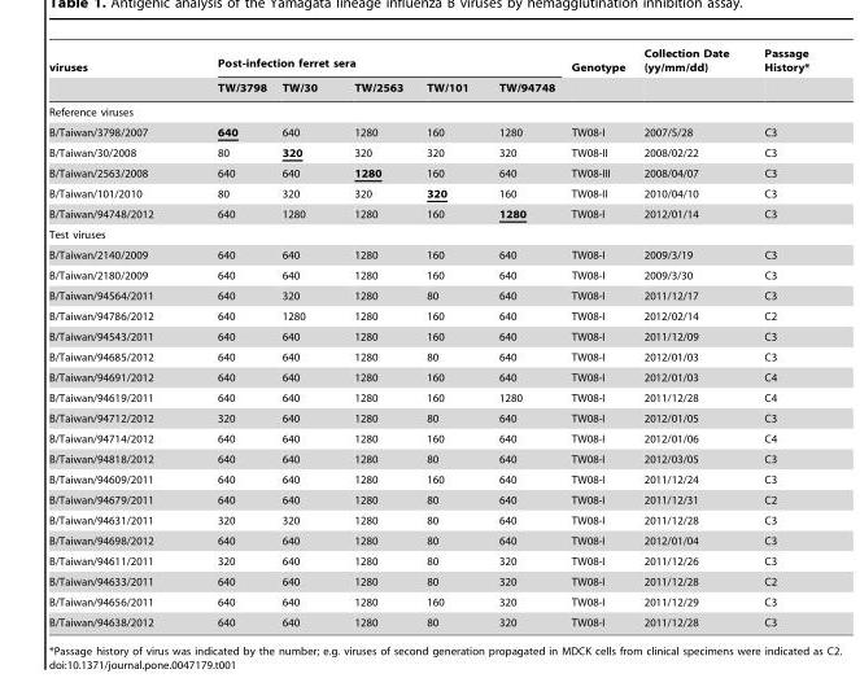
<table><thead><tr><td rowspan="2">viruses</td><td colspan="5">Post-infection ferret sera</td><td rowspan="2">Genotype</td><td rowspan="2">Collection Date (yy/mm/dd)</td><td rowspan="2">Passage History*</td></tr><tr><td>TW/3798</td><td>TW/30</td><td>TW/2563</td><td>TW/101</td><td>TW/94748</td></tr></thead><tbody><tr><td colspan="9">Reference viruses</td></tr><tr><td>B/Taiwan/3798/2007</td><td>640</td><td>640</td><td>1280</td><td>160</td><td>1280</td><td>TW08-I</td><td>2007/5/28</td><td>C3</td></tr><tr><td>B/Taiwan/30/2008</td><td>80</td><td>320</td><td>320</td><td>320</td><td>320</td><td>TW08-II</td><td>2008/02/22</td><td>C3</td></tr><tr><td>B/Taiwan/2563/2008</td><td>640</td><td>640</td><td>1280</td><td>160</td><td>640</td><td>TW08-III</td><td>2008/04/07</td><td>C3</td></tr><tr><td>B/Taiwan/101/2010</td><td>80</td><td>320</td><td>320</td><td>320</td><td>160</td><td>TW08-II</td><td>2010/04/10</td><td>C3</td></tr><tr><td>B/Taiwan/94748/2012</td><td>640</td><td>1280</td><td>1280</td><td>160</td><td>1280</td><td>TW08-I</td><td>2012/01/14</td><td>C3</td></tr><tr><td colspan="9">Test viruses</td></tr><tr><td>B/Taiwan/2140/2009</td><td>640</td><td>640</td><td>1280</td><td>160</td><td>640</td><td>TW08-I</td><td>2009/3/19</td><td>C3</td></tr><tr><td>B/Taiwan/2180/2009</td><td>640</td><td>640</td><td>1280</td><td>160</td><td>640</td><td>TW08-I</td><td>2009/3/30</td><td>C3</td></tr><tr><td>B/Taiwan/94564/2011</td><td>640</td><td>320</td><td>1280</td><td>80</td><td>640</td><td>TW08-I</td><td>2011/12/17</td><td>C3</td></tr><tr><td>B/Taiwan/94786/2012</td><td>640</td><td>1280</td><td>1280</td><td>160</td><td>640</td><td>TW08-I</td><td>2012/02/14</td><td>C2</td></tr><tr><td>B/Taiwan/94543/2011</td><td>640</td><td>640</td><td>1280</td><td>160</td><td>640</td><td>TW08-I</td><td>2011/12/09</td><td>C3</td></tr><tr><td>B/Taiwan/94685/2012</td><td>640</td><td>640</td><td>1280</td><td>80</td><td>640</td><td>TW08-I</td><td>2012/01/03</td><td>C3</td></tr><tr><td>B/Taiwan/94691/2012</td><td>640</td><td>640</td><td>1280</td><td>160</td><td>640</td><td>TW08-I</td><td>2012/01/03</td><td>C4</td></tr><tr><td>B/Taiwan/94619/2011</td><td>640</td><td>640</td><td>1280</td><td>160</td><td>1280</td><td>TW08-I</td><td>2011/12/28</td><td>C4</td></tr><tr><td>B/Taiwan/94712/2012</td><td>320</td><td>640</td><td>1280</td><td>80</td><td>640</td><td>TW08-I</td><td>2012/01/05</td><td>C3</td></tr><tr><td>B/Taiwan/94714/2012</td><td>640</td><td>640</td><td>1280</td><td>160</td><td>640</td><td>TW08-I</td><td>2012/01/06</td><td>C4</td></tr><tr><td>B/Taiwan/94818/2012</td><td>640</td><td>640</td><td>1280</td><td>80</td><td>640</td><td>TW08-I</td><td>2012/03/05</td><td>C3</td></tr><tr><td>B/Taiwan/94609/2011</td><td>640</td><td>640</td><td>1280</td><td>160</td><td>640</td><td>TW08-I</td><td>2011/12/24</td><td>C3</td></tr><tr><td>B/Taiwan/94679/2011</td><td>640</td><td>640</td><td>1280</td><td>80</td><td>640</td><td>TW08-I</td><td>2011/12/31</td><td>C2</td></tr><tr><td>B/Taiwan/94631/2011</td><td>320</td><td>320</td><td>1280</td><td>80</td><td>640</td><td>TW08-I</td><td>2011/12/28</td><td>C3</td></tr><tr><td>B/Taiwan/94698/2012</td><td>640</td><td>640</td><td>1280</td><td>80</td><td>640</td><td>TW08-I</td><td>2012/01/04</td><td>C3</td></tr><tr><td>B/Taiwan/94611/2011</td><td>320</td><td>640</td><td>1280</td><td>80</td><td>320</td><td>TW08-I</td><td>2011/12/26</td><td>C3</td></tr><tr><td>B/Taiwan/94633/2011</td><td>640</td><td>640</td><td>1280</td><td>80</td><td>320</td><td>TW08-I</td><td>2011/12/28</td><td>C2</td></tr><tr><td>B/Taiwan/94656/2011</td><td>640</td><td>640</td><td>1280</td><td>160</td><td>320</td><td>TW08-I</td><td>2011/12/29</td><td>C3</td></tr><tr><td>B/Taiwan/94638/2012</td><td>640</td><td>640</td><td>1280</td><td>80</td><td>320</td><td>TW08-I</td><td>2011/12/28</td><td>C3</td></tr></tbody></table>